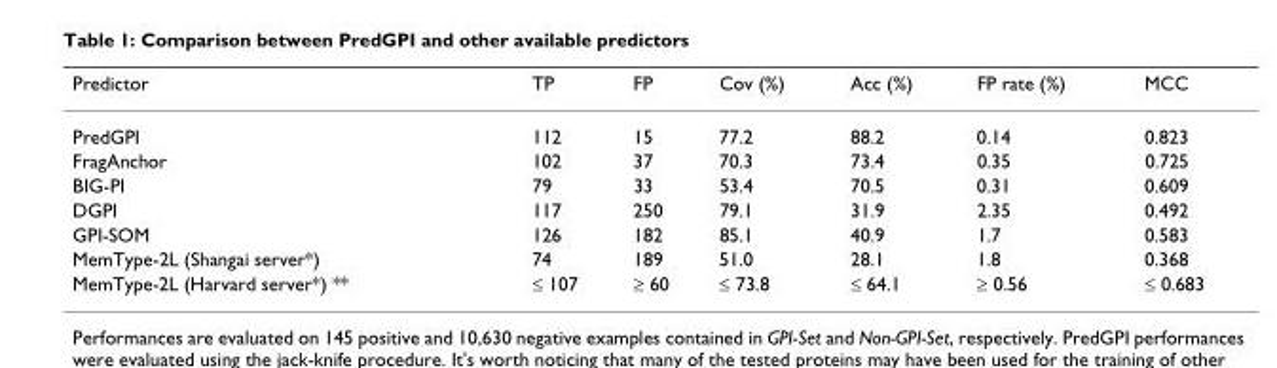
<table><thead><tr><td>Predictor</td><td>TP</td><td>FP</td><td>Cov (%)</td><td>Acc (%)</td><td>FP rate (%)</td><td>MCC</td></tr></thead><tbody><tr><td>PredGPI</td><td>112</td><td>15</td><td>77.2</td><td>88.2</td><td>0.14</td><td>0.823</td></tr><tr><td>FragAnchor</td><td>102</td><td>37</td><td>70.3</td><td>73.4</td><td>0.35</td><td>0.725</td></tr><tr><td>BIG-PI</td><td>79</td><td>33</td><td>53.4</td><td>70.5</td><td>0.31</td><td>0.609</td></tr><tr><td>DGPI</td><td>117</td><td>250</td><td>79.1</td><td>31.9</td><td>2.35</td><td>0.492</td></tr><tr><td>GPI-SOM</td><td>126</td><td>182</td><td>85.1</td><td>40.9</td><td>1.7</td><td>0.583</td></tr><tr><td>MemType-2L (Shangai server*)</td><td>74</td><td>189</td><td>51.0</td><td>28.1</td><td>1.8</td><td>0.368</td></tr><tr><td>MemType-2L (Harvard server*) **</td><td>≤ 107</td><td>≥ 60</td><td>≤ 73.8</td><td>≤ 64.1</td><td>≥ 0.56</td><td>≤ 0.683</td></tr></tbody></table>